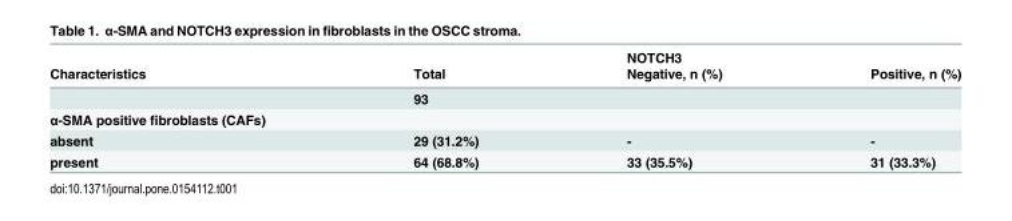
<table><thead><tr><td rowspan="2">Characteristics</td><td rowspan="2">Total</td><td rowspan="2">NOTCH3 Negative, n (%)</td><td rowspan="2">Positive, n (%)</td></tr><tr></tr></thead><tbody><tr><td></td><td>93</td><td></td><td></td></tr><tr><td colspan="4">α-SMA positive fibroblasts (CAFs)</td></tr><tr><td>absent</td><td>29 (31.2%)</td><td>-</td><td>-</td></tr><tr><td>present</td><td>64 (68.8%)</td><td>33 (35.5%)</td><td>31 (33.3%)</td></tr></tbody></table>